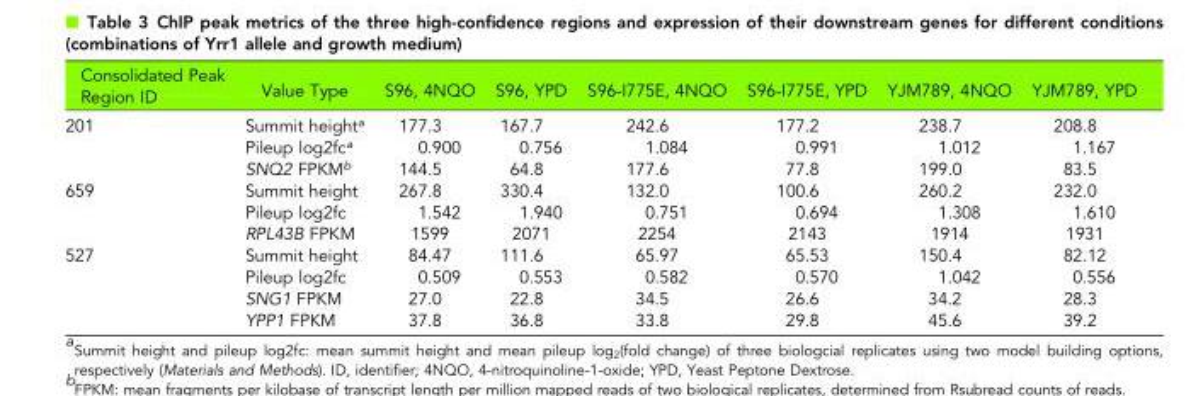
<table><thead><tr><td>Consolidated Peak Region ID</td><td>Value Type</td><td>S96, 4NQO</td><td>S96, YPD</td><td>S96-I775E, 4NQO</td><td>S96-I775E, YPD</td><td>YJM789, 4NQO</td><td>YJM789, YPD</td></tr></thead><tbody><tr><td rowspan="3">201</td><td>Summit height<sup>a</sup></td><td>177.3</td><td>167.7</td><td>242.6</td><td>177.2</td><td>238.7</td><td>208.8</td></tr><tr><td>Pileup log2fc<sup>a</sup></td><td>0.900</td><td>0.756</td><td>1.084</td><td>0.991</td><td>1.012</td><td>1.167</td></tr><tr><td>SNQ2 FPKM<sup>b</sup></td><td>144.5</td><td>64.8</td><td>177.6</td><td>77.8</td><td>199.0</td><td>83.5</td></tr><tr><td rowspan="3">659</td><td>Summit height</td><td>267.8</td><td>330.4</td><td>132.0</td><td>100.6</td><td>260.2</td><td>232.0</td></tr><tr><td>Pileup log2fc</td><td>1.542</td><td>1.940</td><td>0.751</td><td>0.694</td><td>1.308</td><td>1.610</td></tr><tr><td>RPL43B FPKM</td><td>1599</td><td>2071</td><td>2254</td><td>2143</td><td>1914</td><td>1931</td></tr><tr><td rowspan="4">527</td><td>Summit height</td><td>84.47</td><td>111.6</td><td>65.97</td><td>65.53</td><td>150.4</td><td>82.12</td></tr><tr><td>Pileup log2fc</td><td>0.509</td><td>0.553</td><td>0.582</td><td>0.570</td><td>1.042</td><td>0.556</td></tr><tr><td>SNG1 FPKM</td><td>27.0</td><td>22.8</td><td>34.5</td><td>26.6</td><td>34.2</td><td>28.3</td></tr><tr><td>YPP1 FPKM</td><td>37.8</td><td>36.8</td><td>33.8</td><td>29.8</td><td>45.6</td><td>39.2</td></tr></tbody></table>